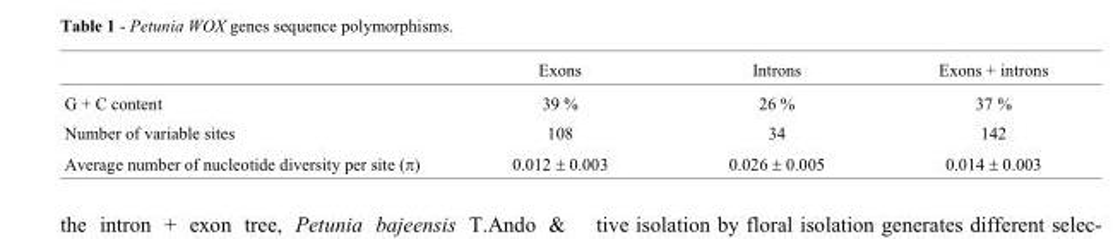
<table><thead><tr><td></td><td>Exons</td><td>Introns</td><td>Exons + introns</td></tr></thead><tbody><tr><td>G + C content</td><td>39 %</td><td>26 %</td><td>37 %</td></tr><tr><td>Number of variable sites</td><td>108</td><td>34</td><td>142</td></tr><tr><td>Average number of nucleotide diversity per site (π)</td><td>0.012 ± 0.003</td><td>0.026 ± 0.005</td><td>0.014 ± 0.003</td></tr></tbody></table>